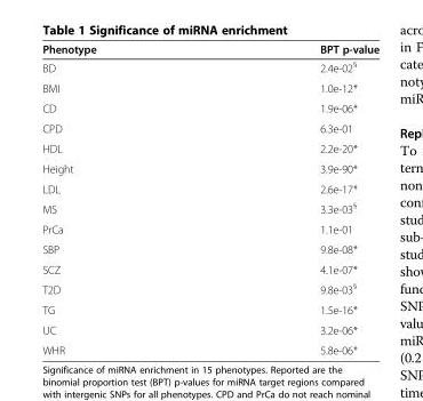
<table><thead><tr><td>Phenotype</td><td>BPT p-value</td></tr></thead><tbody><tr><td>BD</td><td>2.4e-02<sup>§</sup></td></tr><tr><td>BMI</td><td>1.0e-12*</td></tr><tr><td>CD</td><td>1.9e-06*</td></tr><tr><td>CPD</td><td>6.3e-01</td></tr><tr><td>HDL</td><td>2.2e-20*</td></tr><tr><td>Height</td><td>3.9e-90*</td></tr><tr><td>LDL</td><td>2.6e-17*</td></tr><tr><td>MS</td><td>3.3e-03<sup>§</sup></td></tr><tr><td>PrCa</td><td>1.1e-01</td></tr><tr><td>SBP</td><td>9.8e-08*</td></tr><tr><td>SCZ</td><td>4.1e-07*</td></tr><tr><td>T2D</td><td>9.8e-03<sup>§</sup></td></tr><tr><td>TG</td><td>1.5e-16*</td></tr><tr><td>UC</td><td>3.2e-06*</td></tr><tr><td>WHR</td><td>5.8e-06*</td></tr></tbody></table>